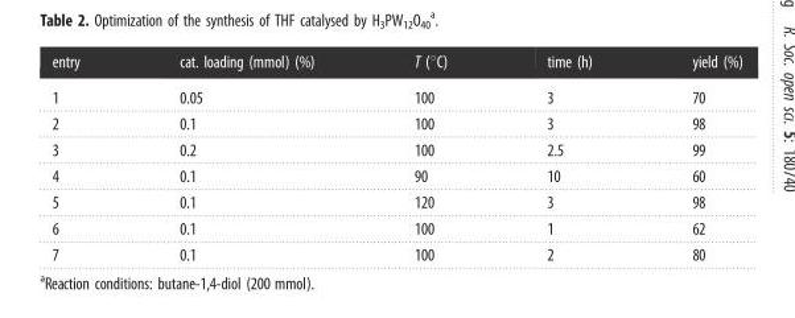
<table><thead><tr><td>entry</td><td>cat. loading (mmol) (%)</td><td>T (°C)</td><td>time (h)</td><td>yield (%)</td></tr></thead><tbody><tr><td>1</td><td>0.05</td><td>100</td><td>3</td><td>70</td></tr><tr><td>2</td><td>0.1</td><td>100</td><td>3</td><td>98</td></tr><tr><td>3</td><td>0.2</td><td>100</td><td>2.5</td><td>99</td></tr><tr><td>4</td><td>0.1</td><td>90</td><td>10</td><td>60</td></tr><tr><td>5</td><td>0.1</td><td>120</td><td>3</td><td>98</td></tr><tr><td>6</td><td>0.1</td><td>100</td><td>1</td><td>62</td></tr><tr><td>7</td><td>0.1</td><td>100</td><td>2</td><td>80</td></tr></tbody></table>